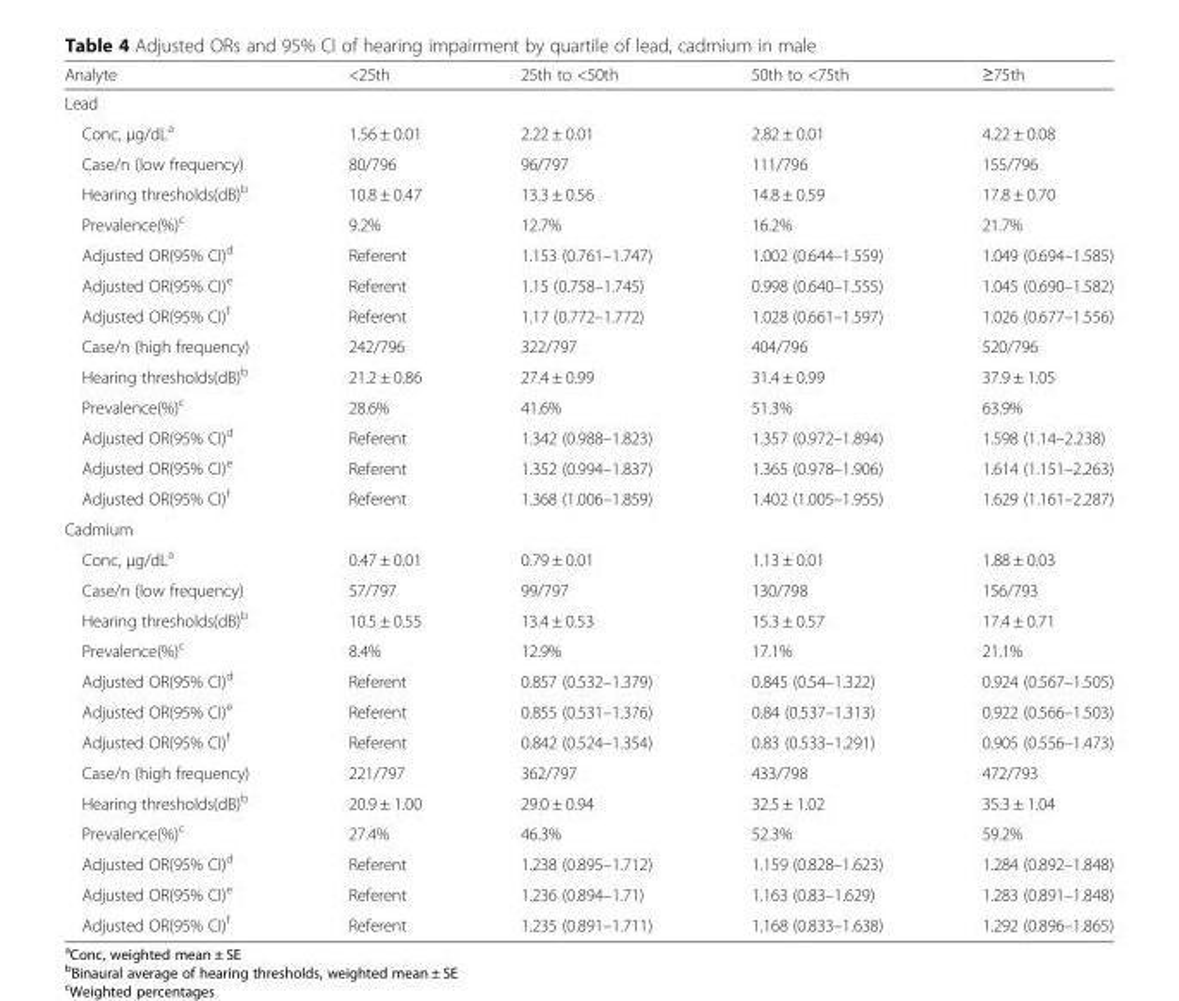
<table><thead><tr><td>Analyte</td><td>&lt;25th</td><td>25th to &lt;50th</td><td>50th to &lt;75th</td><td>≥75th</td></tr></thead><tbody><tr><td colspan="5">Lead</td></tr><tr><td>Conc, μg/dL<sup>a</sup></td><td>1.56 ± 0.01</td><td>2.22 ± 0.01</td><td>2.82 ± 0.01</td><td>4.22 ± 0.08</td></tr><tr><td>Case/n (low frequency)</td><td>80/796</td><td>96/797</td><td>111/796</td><td>155/796</td></tr><tr><td>Hearing thresholds(dB)<sup>b</sup></td><td>10.8 ± 0.47</td><td>13.3 ± 0.56</td><td>14.8 ± 0.59</td><td>17.8 ± 0.70</td></tr><tr><td>Prevalence(%)<sup>c</sup></td><td>9.2%</td><td>12.7%</td><td>16.2%</td><td>21.7%</td></tr><tr><td>Adjusted OR(95% CI)<sup>d</sup></td><td>Referent</td><td>1.153 (0.761–1.747)</td><td>1.002 (0.644–1.559)</td><td>1.049 (0.694–1.585)</td></tr><tr><td>Adjusted OR(95% CI)<sup>e</sup></td><td>Referent</td><td>1.15 (0.758–1.745)</td><td>0.998 (0.640–1.555)</td><td>1.045 (0.690–1.582)</td></tr><tr><td>Adjusted OR(95% CI)<sup>f</sup></td><td>Referent</td><td>1.17 (0.772–1.772)</td><td>1.028 (0.661–1.597)</td><td>1.026 (0.677–1.556)</td></tr><tr><td>Case/n (high frequency)</td><td>242/796</td><td>322/797</td><td>404/796</td><td>520/796</td></tr><tr><td>Hearing thresholds(dB)<sup>b</sup></td><td>21.2 ± 0.86</td><td>27.4 ± 0.99</td><td>31.4 ± 0.99</td><td>37.9 ± 1.05</td></tr><tr><td>Prevalence(%)<sup>c</sup></td><td>28.6%</td><td>41.6%</td><td>51.3%</td><td>63.9%</td></tr><tr><td>Adjusted OR(95% CI)<sup>d</sup></td><td>Referent</td><td>1.342 (0.988–1.823)</td><td>1.357 (0.972–1.894)</td><td>1.598 (1.14–2.238)</td></tr><tr><td>Adjusted OR(95% CI)<sup>e</sup></td><td>Referent</td><td>1.352 (0.994–1.837)</td><td>1.365 (0.978–1.906)</td><td>1.614 (1.151–2.263)</td></tr><tr><td>Adjusted OR(95% CI)<sup>f</sup></td><td>Referent</td><td>1.368 (1.006–1.859)</td><td>1.402 (1.005–1.955)</td><td>1.629 (1.161–2.287)</td></tr><tr><td colspan="5">Cadmium</td></tr><tr><td>Conc, μg/dL<sup>a</sup></td><td>0.47 ± 0.01</td><td>0.79 ± 0.01</td><td>1.13 ± 0.01</td><td>1.88 ± 0.03</td></tr><tr><td>Case/n (low frequency)</td><td>57/797</td><td>99/797</td><td>130/798</td><td>156/793</td></tr><tr><td>Hearing thresholds(dB)<sup>b</sup></td><td>10.5 ± 0.55</td><td>13.4 ± 0.53</td><td>15.3 ± 0.57</td><td>17.4 ± 0.71</td></tr><tr><td>Prevalence(%)<sup>c</sup></td><td>8.4%</td><td>12.9%</td><td>17.1%</td><td>21.1%</td></tr><tr><td>Adjusted OR(95% CI)<sup>d</sup></td><td>Referent</td><td>0.857 (0.532–1.379)</td><td>0.845 (0.54–1.322)</td><td>0.924 (0.567–1.505)</td></tr><tr><td>Adjusted OR(95% CI)<sup>e</sup></td><td>Referent</td><td>0.855 (0.531–1.376)</td><td>0.84 (0.537–1.313)</td><td>0.922 (0.566–1.503)</td></tr><tr><td>Adjusted OR(95% CI)<sup>f</sup></td><td>Referent</td><td>0.842 (0.524–1.354)</td><td>0.83 (0.533–1.291)</td><td>0.905 (0.556–1.473)</td></tr><tr><td>Case/n (high frequency)</td><td>221/797</td><td>362/797</td><td>433/798</td><td>472/793</td></tr><tr><td>Hearing thresholds(dB)<sup>b</sup></td><td>20.9 ± 1.00</td><td>29.0 ± 0.94</td><td>32.5 ± 1.02</td><td>35.3 ± 1.04</td></tr><tr><td>Prevalence(%)<sup>c</sup></td><td>27.4%</td><td>46.3%</td><td>52.3%</td><td>59.2%</td></tr><tr><td>Adjusted OR(95% CI)<sup>d</sup></td><td>Referent</td><td>1.238 (0.895–1.712)</td><td>1.159 (0.828–1.623)</td><td>1.284 (0.892–1.848)</td></tr><tr><td>Adjusted OR(95% CI)<sup>e</sup></td><td>Referent</td><td>1.236 (0.894–1.71)</td><td>1.163 (0.83–1.629)</td><td>1.283 (0.891–1.848)</td></tr><tr><td>Adjusted OR(95% CI)<sup>f</sup></td><td>Referent</td><td>1.235 (0.891–1.711)</td><td>1.168 (0.833–1.638)</td><td>1.292 (0.896–1.865)</td></tr></tbody></table>